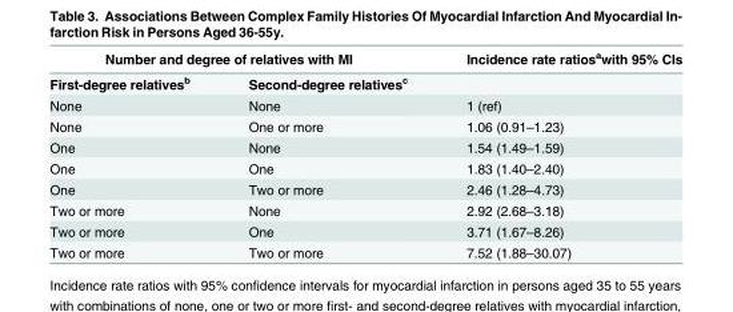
<table><thead><tr><td colspan="2">Number and degree of relatives with MI</td><td rowspan="2">Incidence rate ratios<sup>a</sup>with 95% CIs</td></tr><tr><td>First-degree relatives<sup>b</sup></td><td>Second-degree relatives<sup>c</sup></td></tr></thead><tbody><tr><td>None</td><td>None</td><td>1 (ref)</td></tr><tr><td>None</td><td>One or more</td><td>1.06 (0.91–1.23)</td></tr><tr><td>One</td><td>None</td><td>1.54 (1.49–1.59)</td></tr><tr><td>One</td><td>One</td><td>1.83 (1.40–2.40)</td></tr><tr><td>One</td><td>Two or more</td><td>2.46 (1.28–4.73)</td></tr><tr><td>Two or more</td><td>None</td><td>2.92 (2.68–3.18)</td></tr><tr><td>Two or more</td><td>One</td><td>3.71 (1.67–8.26)</td></tr><tr><td>Two or more</td><td>Two or more</td><td>7.52 (1.88–30.07)</td></tr></tbody></table>